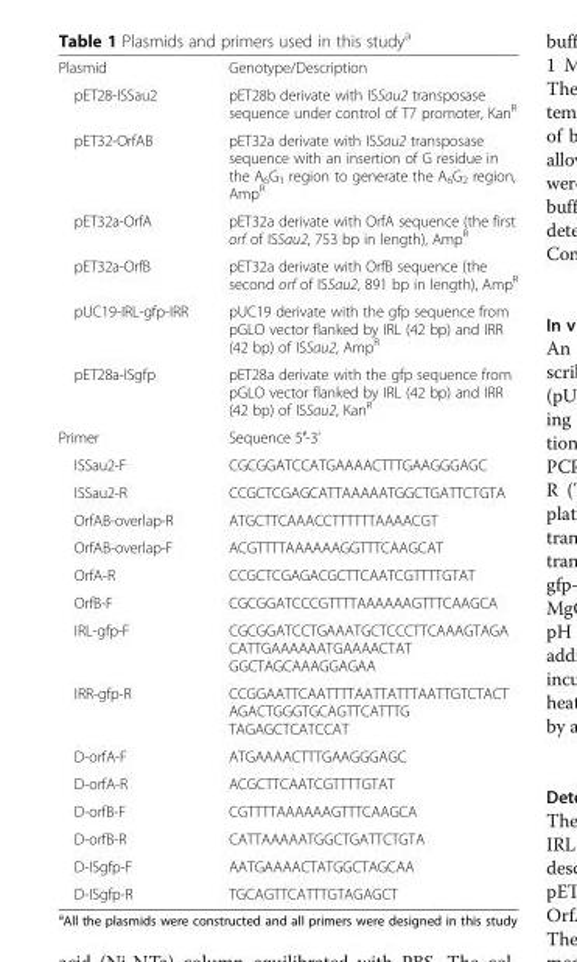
<table><tbody><tr><td>Plasmid</td><td>Genotype/Description</td></tr><tr><td>pET28-ISSau2</td><td>pET28b derivate with ISSau2 transposase sequence under control of T7 promoter, Kan<sup>R</sup></td></tr><tr><td>pET32-OrfAB</td><td>pET32a derivate with ISSau2 transposase sequence with an insertion of G residue in the A<sub>6</sub>G<sub>1</sub> region to generate the A<sub>6</sub>G<sub>2</sub> region, Amp<sup>R</sup></td></tr><tr><td>pET32a-OrfA</td><td>pET32a derivate with OrfA sequence (the first orf of ISSau2, 753 bp in length), Amp<sup>R</sup></td></tr><tr><td>pET32a-OrfB</td><td>pET32a derivate with OrfB sequence (the second orf of ISSau2, 891 bp in length), Amp<sup>R</sup></td></tr><tr><td>pUC19-IRL-gfp-IRR</td><td>pUC19 derivate with the gfp sequence from pGLO vector flanked by IRL (42 bp) and IRR (42 bp) of ISSau2, Amp<sup>R</sup></td></tr><tr><td>pET28a-ISgfp</td><td>pET28a derivate with the gfp sequence from pGLO vector flanked by IRL (42 bp) and IRR (42 bp) of ISSau2, Kan<sup>R</sup></td></tr><tr><td>Primer</td><td>Sequence 5′-3’</td></tr><tr><td>ISSau2-F</td><td>CGCGGATCCATGAAAACTTTGAAGGGAGC</td></tr><tr><td>ISSau2-R</td><td>CCGCTCGAGCATTAAAAATGGCTGATTCTGTA</td></tr><tr><td>OrfAB-overlap-R</td><td>ATGCTTCAAACCTTTTTTAAAACGT</td></tr><tr><td>OrfAB-overlap-F</td><td>ACGTTTTAAAAAAGGTTTCAAGCAT</td></tr><tr><td>OrfA-R</td><td>CCGCTCGAGACGCTTCAATCGTTTTGTAT</td></tr><tr><td>OrfB-F</td><td>CGCGGATCCCGTTTTAAAAAAGTTTCAAGCA</td></tr><tr><td>IRL-gfp-F</td><td>CGCGGATCCTGAAATGCTCCCTTCAAAGTAGA CATTGAAAAAATGAAAACTAT GGCTAGCAAAGGAGAA</td></tr><tr><td>IRR-gfp-R</td><td>CCGGAATTCAATTTTAATTATTTAATTGTCTACT AGACTGGGTGCAGTTCATTTG TAGAGCTCATCCAT</td></tr><tr><td>D-orfA-F</td><td>ATGAAAACTTTGAAGGGAGC</td></tr><tr><td>D-orfA-R</td><td>ACGCTTCAATCGTTTTGTAT</td></tr><tr><td>D-orfB-F</td><td>CGTTTTAAAAAAGTTTCAAGCA</td></tr><tr><td>D-orfB-R</td><td>CATTAAAAATGGCTGATTCTGTA</td></tr><tr><td>D-ISgfp-F</td><td>AATGAAAACTATGGCTAGCAA</td></tr><tr><td>D-ISgfp-R</td><td>TGCAGTTCATTTGTAGAGCT</td></tr></tbody></table>